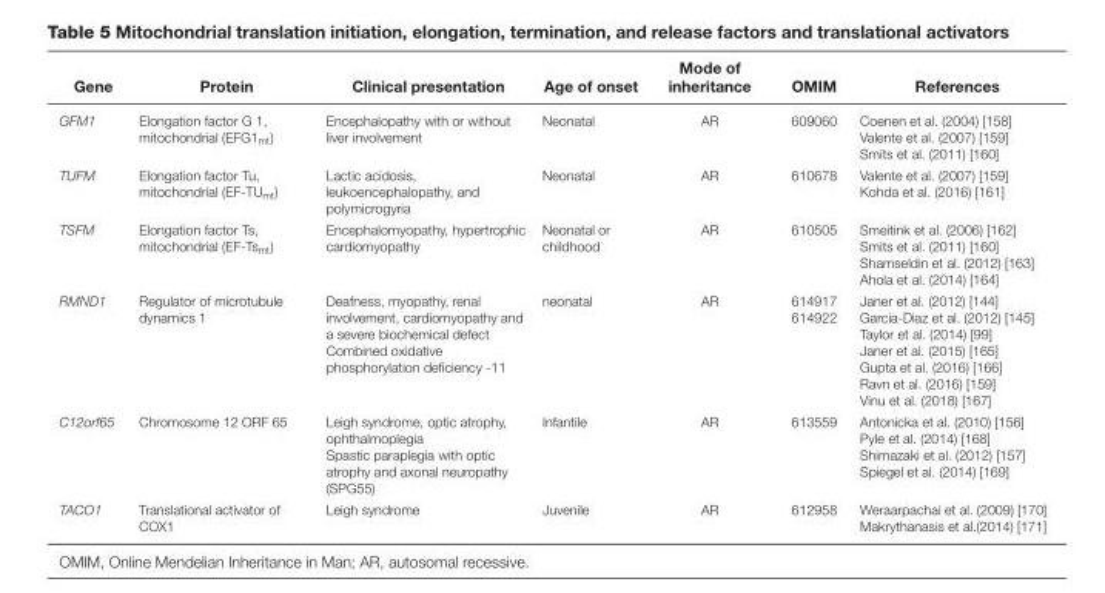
<table><thead><tr><td>Gene</td><td>Protein</td><td>Clinical presentation</td><td>Age of onset</td><td>Mode of inheritance</td><td>OMIM</td><td>References</td></tr></thead><tbody><tr><td>GFM1</td><td>Elongation factor G 1, mitochondrial (EFG1<sub>mt</sub>)</td><td>Encephalopathy with or without liver involvement</td><td>Neonatal</td><td>AR</td><td>609060</td><td>Coenen et al. (2004) [158] Valente et al. (2007) [159] Smits et al. (2011) [160]</td></tr><tr><td>TUFM</td><td>Elongation factor Tu, mitochondrial (EF-TU<sub>mt</sub>)</td><td>Lactic acidosis, leukoencephalopathy, and polymicrogyria</td><td>Neonatal</td><td>AR</td><td>610678</td><td>Valente et al. (2007) [159] Kohda et al. (2016) [161]</td></tr><tr><td>TSFM</td><td>Elongation factor Ts, mitochondrial (EF-Ts<sub>mt</sub>)</td><td>Encephalomyopathy, hypertrophic cardiomyopathy</td><td>Neonatal or childhood</td><td>AR</td><td>610505</td><td>Smeitink et al. (2006) [162] Smits et al. (2011) [160] Shamseldin et al. (2012) [163] Ahola et al. (2014) [164]</td></tr><tr><td>RMND1</td><td>Regulator of microtubule dynamics 1</td><td>Deafness, myopathy, renal involvement, cardiomyopathy and a severe biochemical defect Combined oxidative phosphorylation deficiency -11</td><td>neonatal</td><td>AR</td><td>614917 614922</td><td>Janer et al. (2012) [144] Garcia-Diaz et al. (2012) [145] Taylor et al. (2014) [99] Janer et al. (2015) [165] Gupta et al. (2016) [166] Ravn et al. (2016) [159] Vinu et al. (2018) [167]</td></tr><tr><td>C12orf65</td><td>Chromosome 12 ORF 65</td><td>Leigh syndrome, optic atrophy, ophthalmoplegia Spastic paraplegia with optic atrophy and axonal neuropathy (SPG55)</td><td>Infantile</td><td>AR</td><td>613559</td><td>Antonicka et al. (2010) [156] Pyle et al. (2014) [168] Shimazaki et al. (2012) [157] Spiegel et al. (2014) [169]</td></tr><tr><td>TACO1</td><td>Translational activator of COX1</td><td>Leigh syndrome</td><td>Juvenile</td><td>AR</td><td>612958</td><td>Weraarpachai et al. (2009) [170] Makrythanasis et al.(2014) [171]</td></tr></tbody></table>